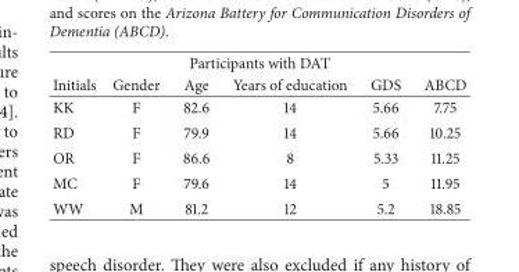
<table><thead><tr><td colspan="6">Participants with DAT</td></tr><tr><td>Initials</td><td>Gender</td><td>Age</td><td>Years of education</td><td>GDS</td><td>ABCD</td></tr></thead><tbody><tr><td>KK</td><td>F</td><td>82.6</td><td>14</td><td>5.66</td><td>7.75</td></tr><tr><td>RD</td><td>F</td><td>79.9</td><td>14</td><td>5.66</td><td>10.25</td></tr><tr><td>OR</td><td>F</td><td>86.6</td><td>8</td><td>5.33</td><td>11.25</td></tr><tr><td>MC</td><td>F</td><td>79.6</td><td>14</td><td>5</td><td>11.95</td></tr><tr><td>WW</td><td>M</td><td>81.2</td><td>12</td><td>5.2</td><td>18.85</td></tr></tbody></table>